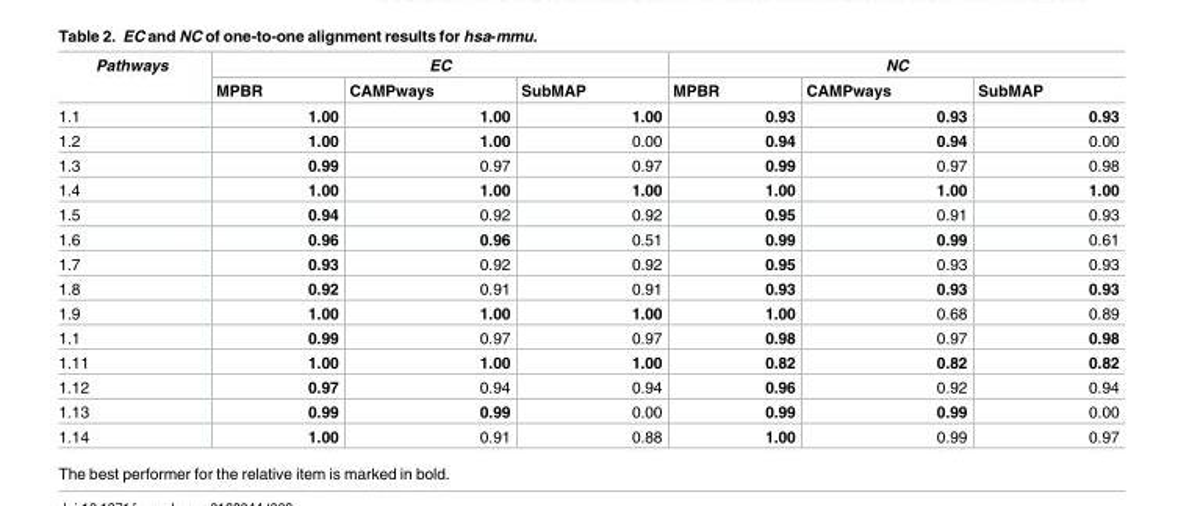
<table><thead><tr><td rowspan="2">Pathways</td><td colspan="3">EC</td><td colspan="3">NC</td></tr><tr><td>MPBR</td><td>CAMPways</td><td>SubMAP</td><td>MPBR</td><td>CAMPways</td><td>SubMAP</td></tr></thead><tbody><tr><td>1.1</td><td>1.00</td><td>1.00</td><td>1.00</td><td>0.93</td><td>0.93</td><td>0.93</td></tr><tr><td>1.2</td><td>1.00</td><td>1.00</td><td>0.00</td><td>0.94</td><td>0.94</td><td>0.00</td></tr><tr><td>1.3</td><td>0.99</td><td>0.97</td><td>0.97</td><td>0.99</td><td>0.97</td><td>0.98</td></tr><tr><td>1.4</td><td>1.00</td><td>1.00</td><td>1.00</td><td>1.00</td><td>1.00</td><td>1.00</td></tr><tr><td>1.5</td><td>0.94</td><td>0.92</td><td>0.92</td><td>0.95</td><td>0.91</td><td>0.93</td></tr><tr><td>1.6</td><td>0.96</td><td>0.96</td><td>0.51</td><td>0.99</td><td>0.99</td><td>0.61</td></tr><tr><td>1.7</td><td>0.93</td><td>0.92</td><td>0.92</td><td>0.95</td><td>0.93</td><td>0.93</td></tr><tr><td>1.8</td><td>0.92</td><td>0.91</td><td>0.91</td><td>0.93</td><td>0.93</td><td>0.93</td></tr><tr><td>1.9</td><td>1.00</td><td>1.00</td><td>1.00</td><td>1.00</td><td>0.68</td><td>0.89</td></tr><tr><td>1.1</td><td>0.99</td><td>0.97</td><td>0.97</td><td>0.98</td><td>0.97</td><td>0.98</td></tr><tr><td>1.11</td><td>1.00</td><td>1.00</td><td>1.00</td><td>0.82</td><td>0.82</td><td>0.82</td></tr><tr><td>1.12</td><td>0.97</td><td>0.94</td><td>0.94</td><td>0.96</td><td>0.92</td><td>0.94</td></tr><tr><td>1.13</td><td>0.99</td><td>0.99</td><td>0.00</td><td>0.99</td><td>0.99</td><td>0.00</td></tr><tr><td>1.14</td><td>1.00</td><td>0.91</td><td>0.88</td><td>1.00</td><td>0.99</td><td>0.97</td></tr></tbody></table>